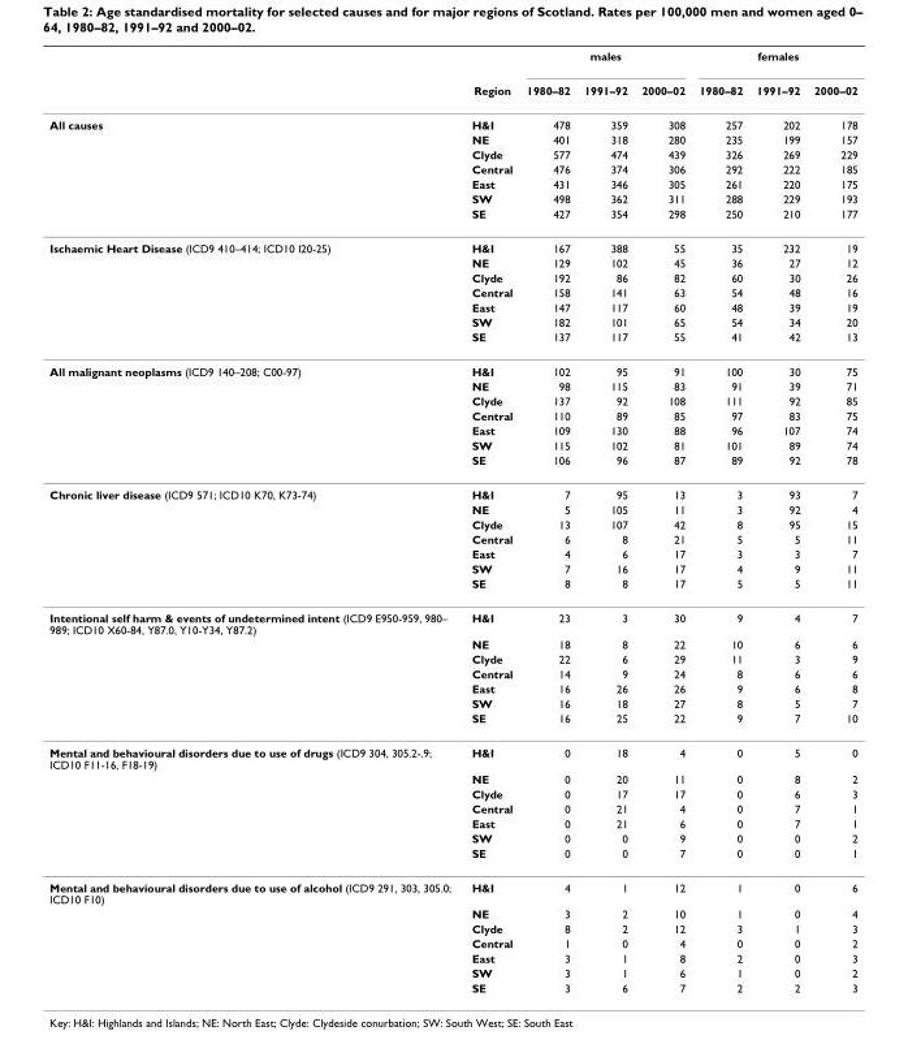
<table><thead><tr><td rowspan="2"></td><td rowspan="2">Region</td><td colspan="3">males</td><td colspan="3">females</td></tr><tr><td>1980–82</td><td>1991–92</td><td>2000–02</td><td>1980–82</td><td>1991–92</td><td>2000–02</td></tr></thead><tbody><tr><td rowspan="7">All causes</td><td>H&amp;I</td><td>478</td><td>359</td><td>308</td><td>257</td><td>202</td><td>178</td></tr><tr><td>NE</td><td>401</td><td>318</td><td>280</td><td>235</td><td>199</td><td>157</td></tr><tr><td>Clyde</td><td>577</td><td>474</td><td>439</td><td>326</td><td>269</td><td>229</td></tr><tr><td>Central</td><td>476</td><td>374</td><td>306</td><td>292</td><td>222</td><td>185</td></tr><tr><td>East</td><td>431</td><td>346</td><td>305</td><td>261</td><td>220</td><td>175</td></tr><tr><td>SW</td><td>498</td><td>362</td><td>311</td><td>288</td><td>229</td><td>193</td></tr><tr><td>SE</td><td>427</td><td>354</td><td>298</td><td>250</td><td>210</td><td>177</td></tr><tr><td rowspan="7">Ischaemic Heart Disease (ICD9 410–414; ICD10 I20-25)</td><td>H&amp;I</td><td>167</td><td>388</td><td>55</td><td>35</td><td>232</td><td>19</td></tr><tr><td>NE</td><td>129</td><td>102</td><td>45</td><td>36</td><td>27</td><td>12</td></tr><tr><td>Clyde</td><td>192</td><td>86</td><td>82</td><td>60</td><td>30</td><td>26</td></tr><tr><td>Central</td><td>158</td><td>141</td><td>63</td><td>54</td><td>48</td><td>16</td></tr><tr><td>East</td><td>147</td><td>117</td><td>60</td><td>48</td><td>39</td><td>19</td></tr><tr><td>SW</td><td>182</td><td>101</td><td>65</td><td>54</td><td>34</td><td>20</td></tr><tr><td>SE</td><td>137</td><td>117</td><td>55</td><td>41</td><td>42</td><td>13</td></tr><tr><td rowspan="7">All malignant neoplasms (ICD9 140–208; C00-97)</td><td>H&amp;I</td><td>102</td><td>95</td><td>91</td><td>100</td><td>30</td><td>75</td></tr><tr><td>NE</td><td>98</td><td>115</td><td>83</td><td>91</td><td>39</td><td>71</td></tr><tr><td>Clyde</td><td>137</td><td>92</td><td>108</td><td>111</td><td>92</td><td>85</td></tr><tr><td>Central</td><td>110</td><td>89</td><td>85</td><td>97</td><td>83</td><td>75</td></tr><tr><td>East</td><td>109</td><td>130</td><td>88</td><td>96</td><td>107</td><td>74</td></tr><tr><td>SW</td><td>115</td><td>102</td><td>81</td><td>101</td><td>89</td><td>74</td></tr><tr><td>SE</td><td>106</td><td>96</td><td>87</td><td>89</td><td>92</td><td>78</td></tr><tr><td rowspan="7">Chronic liver disease (ICD9 571; ICD10 K70, K73-74)</td><td>H&amp;I</td><td>7</td><td>95</td><td>13</td><td>3</td><td>93</td><td>7</td></tr><tr><td>NE</td><td>5</td><td>105</td><td>11</td><td>3</td><td>92</td><td>4</td></tr><tr><td>Clyde</td><td>13</td><td>107</td><td>42</td><td>8</td><td>95</td><td>15</td></tr><tr><td>Central</td><td>6</td><td>8</td><td>21</td><td>5</td><td>5</td><td>11</td></tr><tr><td>East</td><td>4</td><td>6</td><td>17</td><td>3</td><td>3</td><td>7</td></tr><tr><td>SW</td><td>7</td><td>16</td><td>17</td><td>4</td><td>9</td><td>11</td></tr><tr><td>SE</td><td>8</td><td>8</td><td>17</td><td>5</td><td>5</td><td>11</td></tr><tr><td rowspan="7">Intentional self harm &amp; events of undetermined intent (ICD9 E950-959, 980– 989; ICD10 X60-84, Y87.0, Y10-Y34, Y87.2)</td><td>H&amp;I</td><td>23</td><td>3</td><td>30</td><td>9</td><td>4</td><td>7</td></tr><tr><td>NE</td><td>18</td><td>8</td><td>22</td><td>10</td><td>6</td><td>6</td></tr><tr><td>Clyde</td><td>22</td><td>6</td><td>29</td><td>11</td><td>3</td><td>9</td></tr><tr><td>Central</td><td>14</td><td>9</td><td>24</td><td>8</td><td>6</td><td>6</td></tr><tr><td>East</td><td>16</td><td>26</td><td>26</td><td>9</td><td>6</td><td>8</td></tr><tr><td>SW</td><td>16</td><td>18</td><td>27</td><td>8</td><td>5</td><td>7</td></tr><tr><td>SE</td><td>16</td><td>25</td><td>22</td><td>9</td><td>7</td><td>10</td></tr><tr><td rowspan="7">Mental and behavioural disorders due to use of drugs (ICD9 304, 305.2-.9; ICD10 F11-16, F18-19)</td><td>H&amp;I</td><td>0</td><td>18</td><td>4</td><td>0</td><td>5</td><td>0</td></tr><tr><td>NE</td><td>0</td><td>20</td><td>11</td><td>0</td><td>8</td><td>2</td></tr><tr><td>Clyde</td><td>0</td><td>17</td><td>17</td><td>0</td><td>6</td><td>3</td></tr><tr><td>Central</td><td>0</td><td>21</td><td>4</td><td>0</td><td>7</td><td>1</td></tr><tr><td>East</td><td>0</td><td>21</td><td>6</td><td>0</td><td>7</td><td>1</td></tr><tr><td>SW</td><td>0</td><td>0</td><td>9</td><td>0</td><td>0</td><td>2</td></tr><tr><td>SE</td><td>0</td><td>0</td><td>7</td><td>0</td><td>0</td><td>1</td></tr><tr><td rowspan="7">Mental and behavioural disorders due to use of alcohol (ICD9 291, 303, 305.0; ICD10 F10)</td><td>H&amp;I</td><td>4</td><td>1</td><td>12</td><td>1</td><td>0</td><td>6</td></tr><tr><td>NE</td><td>3</td><td>2</td><td>10</td><td>1</td><td>0</td><td>4</td></tr><tr><td>Clyde</td><td>8</td><td>2</td><td>12</td><td>3</td><td>1</td><td>3</td></tr><tr><td>Central</td><td>1</td><td>0</td><td>4</td><td>0</td><td>0</td><td>2</td></tr><tr><td>East</td><td>3</td><td>1</td><td>8</td><td>2</td><td>0</td><td>3</td></tr><tr><td>SW</td><td>3</td><td>1</td><td>6</td><td>1</td><td>0</td><td>2</td></tr><tr><td>SE</td><td>3</td><td>6</td><td>7</td><td>2</td><td>2</td><td>3</td></tr></tbody></table>